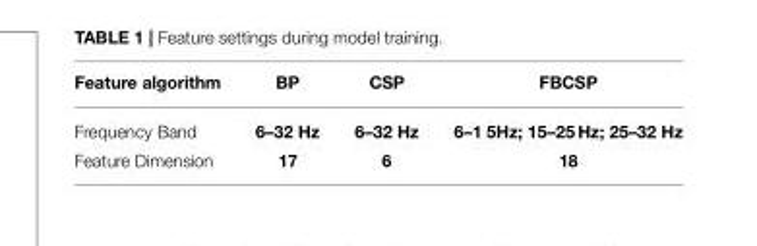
<table><thead><tr><td>Feature algorithm</td><td>BP</td><td>CSP</td><td>FBCSP</td></tr></thead><tbody><tr><td>Frequency Band</td><td>6–32 Hz</td><td>6–32 Hz</td><td>6–1 5Hz; 15–25 Hz; 25–32 Hz</td></tr><tr><td>Feature Dimension</td><td>17</td><td>6</td><td>18</td></tr></tbody></table>